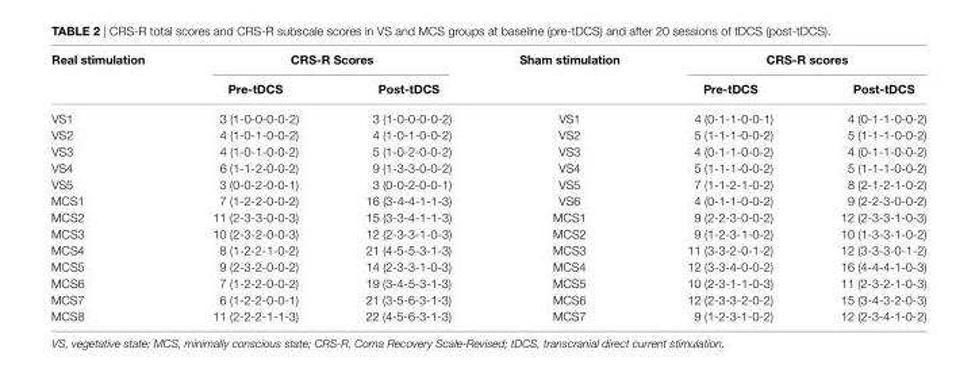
<table><thead><tr><td rowspan="2">real stimulation</td><td colspan="2">crs-r scores</td><td rowspan="2">sham stimulation</td><td colspan="2">crs-r scores</td></tr><tr><td>Pre-tDcs</td><td>Post-tDcs</td><td>Pre-tDcs</td><td>Post-tDcs</td></tr></thead><tbody><tr><td>VS1</td><td>3 (1-0-0-0-0-2)</td><td>3 (1-0-0-0-0-2)</td><td>VS1</td><td>4 (0-1-1-0-0-1)</td><td>4 (0-1-1-0-0-2)</td></tr><tr><td>VS2</td><td>4 (1-0-1-0-0-2)</td><td>4 (1-0-1-0-0-2)</td><td>VS2</td><td>5 (1-1-1-0-0-2)</td><td>5 (1-1-1-0-0-2)</td></tr><tr><td>VS3</td><td>4 (1-0-1-0-0-2)</td><td>5 (1-0-2-0-0-2)</td><td>VS3</td><td>4 (0-1-1-0-0-2)</td><td>4 (0-1-1-0-0-2)</td></tr><tr><td>VS4</td><td>6 (1-1-2-0-0-2)</td><td>9 (1-3-3-0-0-2)</td><td>VS4</td><td>5 (1-1-1-0-0-2)</td><td>5 (1-1-1-0-0-2)</td></tr><tr><td>VS5</td><td>3 (0-0-2-0-0-1)</td><td>3 (0-0-2-0-0-1)</td><td>VS5</td><td>7 (1-1-2-1-0-2)</td><td>8 (2-1-2-1-0-2)</td></tr><tr><td>MCS1</td><td>7 (1-2-2-0-0-2)</td><td>16 (3-4-4-1-1-3)</td><td>VS6</td><td>4 (0-1-1-0-0-2)</td><td>9 (2-2-3-0-0-2)</td></tr><tr><td>MCS2</td><td>11 (2-3-3-0-0-3)</td><td>15 (3-3-4-1-1-3)</td><td>MCS1</td><td>9 (2-2-3-0-0-2)</td><td>12 (2-3-3-1-0-3)</td></tr><tr><td>MCS3</td><td>10 (2-3-2-0-0-3)</td><td>12 (2-3-3-1-0-3)</td><td>MCS2</td><td>9 (1-2-3-1-0-2)</td><td>10 (1-3-3-1-0-2)</td></tr><tr><td>MCS4</td><td>8 (1-2-2-1-0-2)</td><td>21 (4-5-5-3-1-3)</td><td>MCS3</td><td>11 (3-3-2-0-1-2)</td><td>12 (3-3-3-0-1-2)</td></tr><tr><td>MCS5</td><td>9 (2-3-2-0-0-2)</td><td>14 (2-3-3-1-0-3)</td><td>MCS4</td><td>12 (3-3-4-0-0-2)</td><td>16 (4-4-4-1-0-3)</td></tr><tr><td>MCS6</td><td>7 (1-2-2-0-0-2)</td><td>19 (3-4-5-3-1-3)</td><td>MCS5</td><td>10 (2-3-1-1-0-3)</td><td>11 (2-3-2-1-0-3)</td></tr><tr><td>MCS7</td><td>6 (1-2-2-0-0-1)</td><td>21 (3-5-6-3-1-3)</td><td>MCS6</td><td>12 (2-3-3-2-0-2)</td><td>15 (3-4-3-2-0-3)</td></tr><tr><td>MCS8</td><td>11 (2-2-2-1-1-3)</td><td>22 (4-5-6-3-1-3)</td><td>MCS7</td><td>9 (1-2-3-1-0-2)</td><td>12 (2-3-4-1-0-2)</td></tr></tbody></table>